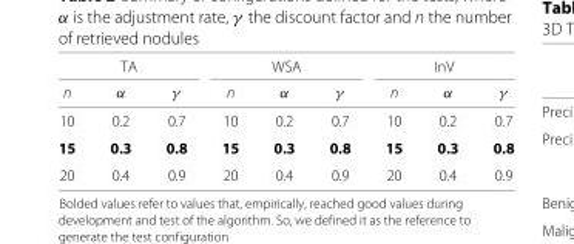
<table><thead><tr><td colspan="3">TA</td><td colspan="3">WSA</td><td colspan="3">InV</td></tr><tr><td>n</td><td>α</td><td>γ</td><td>n</td><td>α</td><td>γ</td><td>n</td><td>α</td><td>γ</td></tr></thead><tbody><tr><td>10</td><td>0.2</td><td>0.7</td><td>10</td><td>0.2</td><td>0.7</td><td>10</td><td>0.2</td><td>0.7</td></tr><tr><td>15</td><td>0.3</td><td>0.8</td><td>15</td><td>0.3</td><td>0.8</td><td>15</td><td>0.3</td><td>0.8</td></tr><tr><td>20</td><td>0.4</td><td>0.9</td><td>20</td><td>0.4</td><td>0.9</td><td>20</td><td>0.4</td><td>0.9</td></tr></tbody></table>